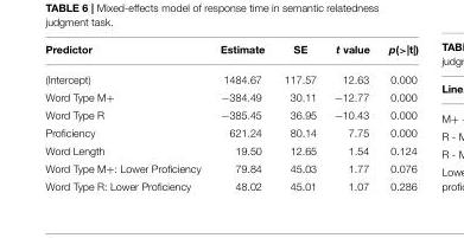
<table><thead><tr><td>Predictor</td><td>Estimate</td><td>SE</td><td>t value</td><td>p(&gt;|t|)</td></tr></thead><tbody><tr><td>(Intercept)</td><td>1484.67</td><td>117.57</td><td>12.63</td><td>0.000</td></tr><tr><td>Word Type M+</td><td>−384.49</td><td>30.11</td><td>−12.77</td><td>0.000</td></tr><tr><td>Word Type R</td><td>−385.45</td><td>36.95</td><td>−10.43</td><td>0.000</td></tr><tr><td>Proficiency</td><td>621.24</td><td>80.14</td><td>7.75</td><td>0.000</td></tr><tr><td>Word Length</td><td>19.50</td><td>12.65</td><td>1.54</td><td>0.124</td></tr><tr><td>Word Type M+: Lower Proficiency</td><td>79.84</td><td>45.03</td><td>1.77</td><td>0.076</td></tr><tr><td>Word Type R: Lower Proficiency</td><td>48.02</td><td>45.01</td><td>1.07</td><td>0.286</td></tr></tbody></table>